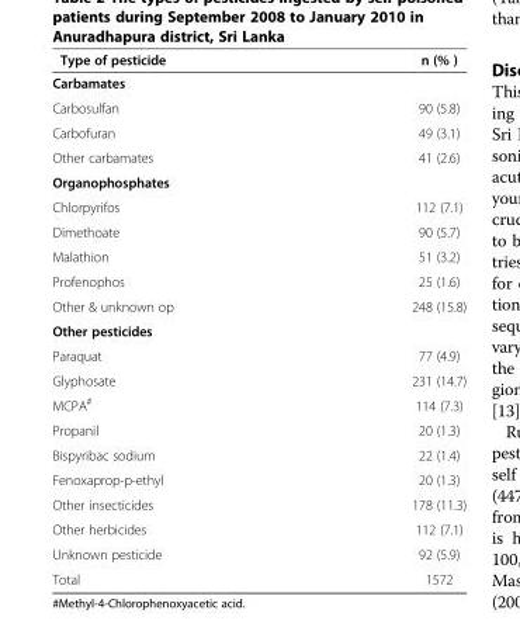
<table><thead><tr><td>Type of pesticide</td><td>n (% )</td></tr></thead><tbody><tr><td colspan="2">Carbamates</td></tr><tr><td>Carbosulfan</td><td>90 (5.8)</td></tr><tr><td>Carbofuran</td><td>49 (3.1)</td></tr><tr><td>Other carbamates</td><td>41 (2.6)</td></tr><tr><td colspan="2">Organophosphates</td></tr><tr><td>Chlorpyrifos</td><td>112 (7.1)</td></tr><tr><td>Dimethoate</td><td>90 (5.7)</td></tr><tr><td>Malathion</td><td>51 (3.2)</td></tr><tr><td>Profenophos</td><td>25 (1.6)</td></tr><tr><td>Other &amp; unknown op</td><td>248 (15.8)</td></tr><tr><td colspan="2">Other pesticides</td></tr><tr><td>Paraquat</td><td>77 (4.9)</td></tr><tr><td>Glyphosate</td><td>231 (14.7)</td></tr><tr><td>MCPA<sup>#</sup></td><td>114 (7.3)</td></tr><tr><td>Propanil</td><td>20 (1.3)</td></tr><tr><td>Bispyribac sodium</td><td>22 (1.4)</td></tr><tr><td>Fenoxaprop-p-ethyl</td><td>20 (1.3)</td></tr><tr><td>Other insecticides</td><td>178 (11.3)</td></tr><tr><td>Other herbicides</td><td>112 (7.1)</td></tr><tr><td>Unknown pesticide</td><td>92 (5.9)</td></tr><tr><td>Total</td><td>1572</td></tr></tbody></table>